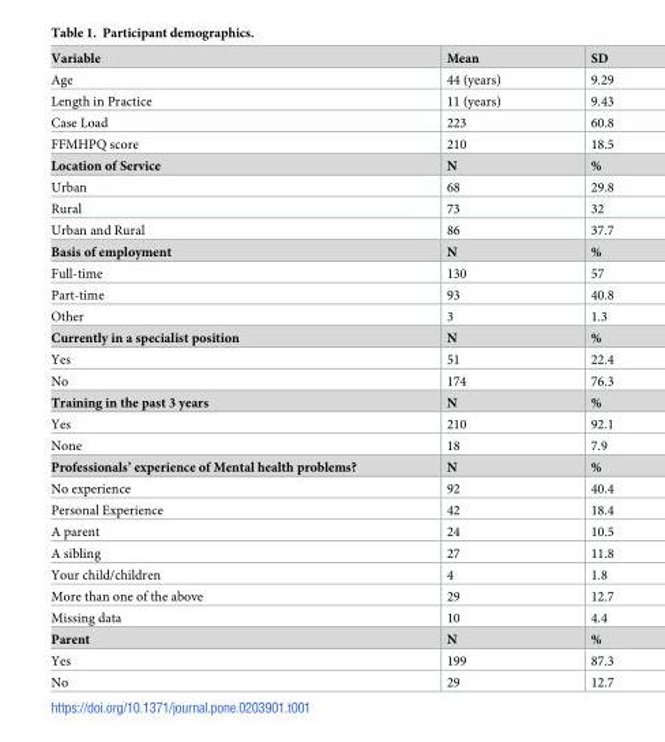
<table><tbody><tr><td>Variable</td><td>Mean</td><td>SD</td></tr><tr><td>Age</td><td>44 (years)</td><td>9.29</td></tr><tr><td>Length in Practice</td><td>11 (years)</td><td>9.43</td></tr><tr><td>Case Load</td><td>223</td><td>60.8</td></tr><tr><td>FFMHPQ score</td><td>210</td><td>18.5</td></tr><tr><td>Location of Service</td><td>N</td><td>%</td></tr><tr><td>Urban</td><td>68</td><td>29.8</td></tr><tr><td>Rural</td><td>73</td><td>32</td></tr><tr><td>Urban and Rural</td><td>86</td><td>37.7</td></tr><tr><td>Basis of employment</td><td>N</td><td>%</td></tr><tr><td>Full-time</td><td>130</td><td>57</td></tr><tr><td>Part-time</td><td>93</td><td>40.8</td></tr><tr><td>Other</td><td>3</td><td>1.3</td></tr><tr><td>Currently in a specialist position</td><td>N</td><td>%</td></tr><tr><td>Yes</td><td>51</td><td>22.4</td></tr><tr><td>No</td><td>174</td><td>76.3</td></tr><tr><td>Training in the past 3 years</td><td>N</td><td>%</td></tr><tr><td>Yes</td><td>210</td><td>92.1</td></tr><tr><td>None</td><td>18</td><td>7.9</td></tr><tr><td>Professionals’ experience of Mental health problems?</td><td>N</td><td>%</td></tr><tr><td>No experience</td><td>92</td><td>40.4</td></tr><tr><td>Personal Experience</td><td>42</td><td>18.4</td></tr><tr><td>A parent</td><td>24</td><td>10.5</td></tr><tr><td>A sibling</td><td>27</td><td>11.8</td></tr><tr><td>Your child/children</td><td>4</td><td>1.8</td></tr><tr><td>More than one of the above</td><td>29</td><td>12.7</td></tr><tr><td>Missing data</td><td>10</td><td>4.4</td></tr><tr><td>Parent</td><td>N</td><td>%</td></tr><tr><td>Yes</td><td>199</td><td>87.3</td></tr><tr><td>No</td><td>29</td><td>12.7</td></tr></tbody></table>